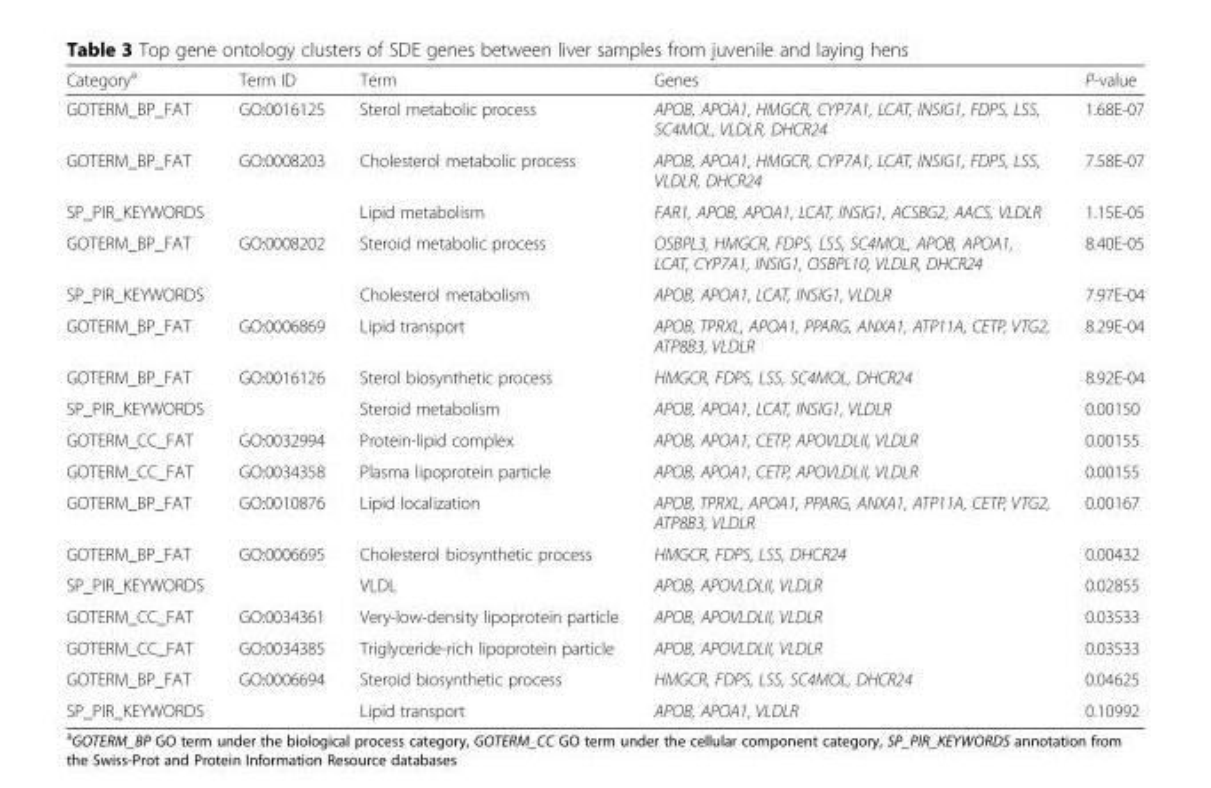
<table><thead><tr><td>Category<sup>a</sup></td><td>Term ID</td><td>Term</td><td>Genes</td><td>P-value</td></tr></thead><tbody><tr><td>GOTERM_BP_FAT</td><td>GO:0016125</td><td>Sterol metabolic process</td><td>APOB, APOA1, HMGCR, CYP7A1, LCAT, INSIG1, FDPS, LSS, SC4MOL, VLDLR, DHCR24</td><td>1.68E-07</td></tr><tr><td>GOTERM_BP_FAT</td><td>GO:0008203</td><td>Cholesterol metabolic process</td><td>APOB, APOA1, HMGCR, CYP7A1, LCAT, INSIG1, FDPS, LSS, VLDLR, DHCR24</td><td>7.58E-07</td></tr><tr><td>SP_PIR_KEYWORDS</td><td></td><td>Lipid metabolism</td><td>FAR1, APOB, APOA1, LCAT, INSIG1, ACSBG2, AACS, VLDLR</td><td>1.15E-05</td></tr><tr><td>GOTERM_BP_FAT</td><td>GO:0008202</td><td>Steroid metabolic process</td><td>OSBPL3, HMGCR, FDPS, LSS, SC4MOL, APOB, APOA1, LCAT, CYP7A1, INSIG1, OSBPL10, VLDLR, DHCR24</td><td>8.40E-05</td></tr><tr><td>SP_PIR_KEYWORDS</td><td></td><td>Cholesterol metabolism</td><td>APOB, APOA1, LCAT, INSIG1, VLDLR</td><td>7.97E-04</td></tr><tr><td>GOTERM_BP_FAT</td><td>GO:0006869</td><td>Lipid transport</td><td>APOB, TPRXL, APOA1, PPARG, ANXA1, ATP11A, CETP, VTG2, ATP8B3, VLDLR</td><td>8.29E-04</td></tr><tr><td>GOTERM_BP_FAT</td><td>GO:0016126</td><td>Sterol biosynthetic process</td><td>HMGCR, FDPS, LSS, SC4MOL, DHCR24</td><td>8.92E-04</td></tr><tr><td>SP_PIR_KEYWORDS</td><td></td><td>Steroid metabolism</td><td>APOB, APOA1, LCAT, INSIG1, VLDLR</td><td>0.00150</td></tr><tr><td>GOTERM_CC_FAT</td><td>GO:0032994</td><td>Protein-lipid complex</td><td>APOB, APOA1, CETP, APOVLDLII, VLDLR</td><td>0.00155</td></tr><tr><td>GOTERM_CC_FAT</td><td>GO:0034358</td><td>Plasma lipoprotein particle</td><td>APOB, APOA1, CETP, APOVLDLII, VLDLR</td><td>0.00155</td></tr><tr><td>GOTERM_BP_FAT</td><td>GO:0010876</td><td>Lipid localization</td><td>APOB, TPRXL, APOA1, PPARG, ANXA1, ATP11A, CETP, VTG2, ATP8B3, VLDLR</td><td>0.00167</td></tr><tr><td>GOTERM_BP_FAT</td><td>GO:0006695</td><td>Cholesterol biosynthetic process</td><td>HMGCR, FDPS, LSS, DHCR24</td><td>0.00432</td></tr><tr><td>SP_PIR_KEYWORDS</td><td></td><td>VLDL</td><td>APOB, APOVLDLII, VLDLR</td><td>0.02855</td></tr><tr><td>GOTERM_CC_FAT</td><td>GO:0034361</td><td>Very-low-density lipoprotein particle</td><td>APOB, APOVLDLII, VLDLR</td><td>0.03533</td></tr><tr><td>GOTERM_CC_FAT</td><td>GO:0034385</td><td>Triglyceride-rich lipoprotein particle</td><td>APOB, APOVLDLII, VLDLR</td><td>0.03533</td></tr><tr><td>GOTERM_BP_FAT</td><td>GO:0006694</td><td>Steroid biosynthetic process</td><td>HMGCR, FDPS, LSS, SC4MOL, DHCR24</td><td>0.04625</td></tr><tr><td>SP_PIR_KEYWORDS</td><td></td><td>Lipid transport</td><td>APOB, APOA1, VLDLR</td><td>0.10992</td></tr></tbody></table>